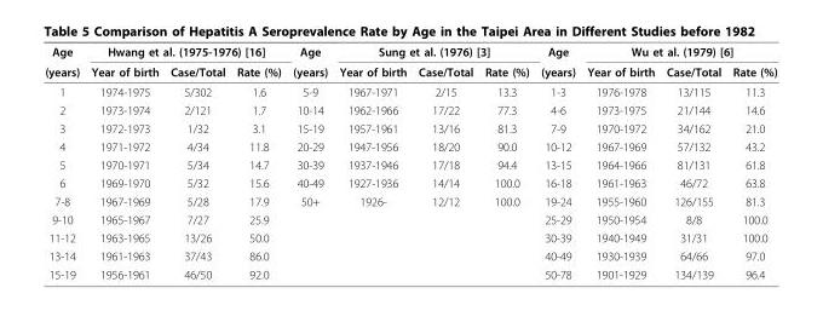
<table><thead><tr><td rowspan="2">Age (years)</td><td colspan="3">Hwang et al. (1975-1976) [16]</td><td rowspan="2">Age (years)</td><td colspan="3">Sung et al. (1976) [3]</td><td rowspan="2">Age (years)</td><td colspan="3">Wu et al. (1979) [6]</td></tr><tr><td>Year of birth</td><td>Case/Total</td><td>Rate (%)</td><td>Year of birth</td><td>Case/Total</td><td>Rate (%)</td><td>Year of birth</td><td>Case/Total</td><td>Rate (%)</td></tr></thead><tbody><tr><td>1</td><td>1974-1975</td><td>5/302</td><td>1.6</td><td>5-9</td><td>1967-1971</td><td>2/15</td><td>13.3</td><td>1-3</td><td>1976-1978</td><td>13/115</td><td>11.3</td></tr><tr><td>2</td><td>1973-1974</td><td>2/121</td><td>1.7</td><td>10-14</td><td>1962-1966</td><td>17/22</td><td>77.3</td><td>4-6</td><td>1973-1975</td><td>21/144</td><td>14.6</td></tr><tr><td>3</td><td>1972-1973</td><td>1/32</td><td>3.1</td><td>15-19</td><td>1957-1961</td><td>13/16</td><td>81.3</td><td>7-9</td><td>1970-1972</td><td>34/162</td><td>21.0</td></tr><tr><td>4</td><td>1971-1972</td><td>4/34</td><td>11.8</td><td>20-29</td><td>1947-1956</td><td>18/20</td><td>90.0</td><td>10-12</td><td>1967-1969</td><td>57/132</td><td>43.2</td></tr><tr><td>5</td><td>1970-1971</td><td>5/34</td><td>14.7</td><td>30-39</td><td>1937-1946</td><td>17/18</td><td>94.4</td><td>13-15</td><td>1964-1966</td><td>81/131</td><td>61.8</td></tr><tr><td>6</td><td>1969-1970</td><td>5/32</td><td>15.6</td><td>40-49</td><td>1927-1936</td><td>14/14</td><td>100.0</td><td>16-18</td><td>1961-1963</td><td>46/72</td><td>63.8</td></tr><tr><td>7-8</td><td>1967-1969</td><td>5/28</td><td>17.9</td><td>50+</td><td>1926-</td><td>12/12</td><td>100.0</td><td>19-24</td><td>1955-1960</td><td>126/155</td><td>81.3</td></tr><tr><td>9-10</td><td>1965-1967</td><td>7/27</td><td>25.9</td><td></td><td></td><td></td><td></td><td>25-29</td><td>1950-1954</td><td>8/8</td><td>100.0</td></tr><tr><td>11-12</td><td>1963-1965</td><td>13/26</td><td>50.0</td><td></td><td></td><td></td><td></td><td>30-39</td><td>1940-1949</td><td>31/31</td><td>100.0</td></tr><tr><td>13-14</td><td>1961-1963</td><td>37/43</td><td>86.0</td><td></td><td></td><td></td><td></td><td>40-49</td><td>1930-1939</td><td>64/66</td><td>97.0</td></tr><tr><td>15-19</td><td>1956-1961</td><td>46/50</td><td>92.0</td><td></td><td></td><td></td><td></td><td>50-78</td><td>1901-1929</td><td>134/139</td><td>96.4</td></tr></tbody></table>